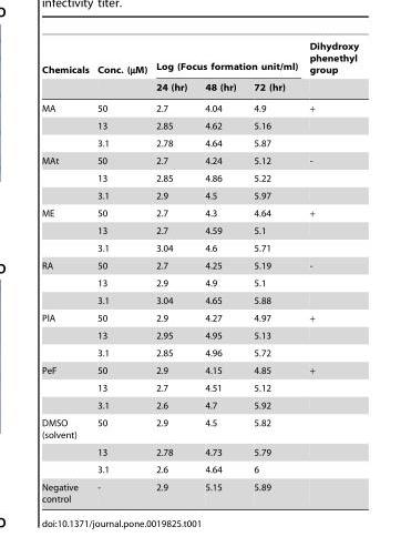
<table><thead><tr><td rowspan="2">Chemicals</td><td rowspan="2">Conc. (µM)</td><td colspan="3">Log (Focus formation unit/ml)</td><td rowspan="2">Dihydroxy phenethyl group</td></tr><tr><td>24 (hr)</td><td>48 (hr)</td><td>72 (hr)</td></tr></thead><tbody><tr><td rowspan="3">MA</td><td>50</td><td>2.7</td><td>4.04</td><td>4.9</td><td>+</td></tr><tr><td>13</td><td>2.85</td><td>4.62</td><td>5.16</td><td></td></tr><tr><td>3.1</td><td>2.78</td><td>4.64</td><td>5.87</td><td></td></tr><tr><td rowspan="3">MAt</td><td>50</td><td>2.7</td><td>4.24</td><td>5.12</td><td>-</td></tr><tr><td>13</td><td>2.85</td><td>4.86</td><td>5.22</td><td></td></tr><tr><td>3.1</td><td>2.9</td><td>4.5</td><td>5.97</td><td></td></tr><tr><td rowspan="3">ME</td><td>50</td><td>2.7</td><td>4.3</td><td>4.64</td><td>+</td></tr><tr><td>13</td><td>2.7</td><td>4.59</td><td>5.1</td><td></td></tr><tr><td>3.1</td><td>3.04</td><td>4.6</td><td>5.71</td><td></td></tr><tr><td rowspan="3">RA</td><td>50</td><td>2.7</td><td>4.25</td><td>5.19</td><td>-</td></tr><tr><td>13</td><td>2.9</td><td>4.9</td><td>5.1</td><td></td></tr><tr><td>3.1</td><td>3.04</td><td>4.65</td><td>5.88</td><td></td></tr><tr><td rowspan="3">PlA</td><td>50</td><td>2.9</td><td>4.27</td><td>4.97</td><td>+</td></tr><tr><td>13</td><td>2.95</td><td>4.95</td><td>5.13</td><td></td></tr><tr><td>3.1</td><td>2.85</td><td>4.96</td><td>5.72</td><td></td></tr><tr><td rowspan="3">PeF</td><td>50</td><td>2.9</td><td>4.15</td><td>4.85</td><td>+</td></tr><tr><td>13</td><td>2.7</td><td>4.51</td><td>5.12</td><td></td></tr><tr><td>3.1</td><td>2.6</td><td>4.7</td><td>5.92</td><td></td></tr><tr><td rowspan="3">DMSO (solvent)</td><td>50</td><td>2.9</td><td>4.5</td><td>5.82</td><td></td></tr><tr><td>13</td><td>2.78</td><td>4.73</td><td>5.79</td><td></td></tr><tr><td>3.1</td><td>2.6</td><td>4.64</td><td>6</td><td></td></tr><tr><td>Negative control</td><td>-</td><td>2.9</td><td>5.15</td><td>5.89</td><td></td></tr></tbody></table>